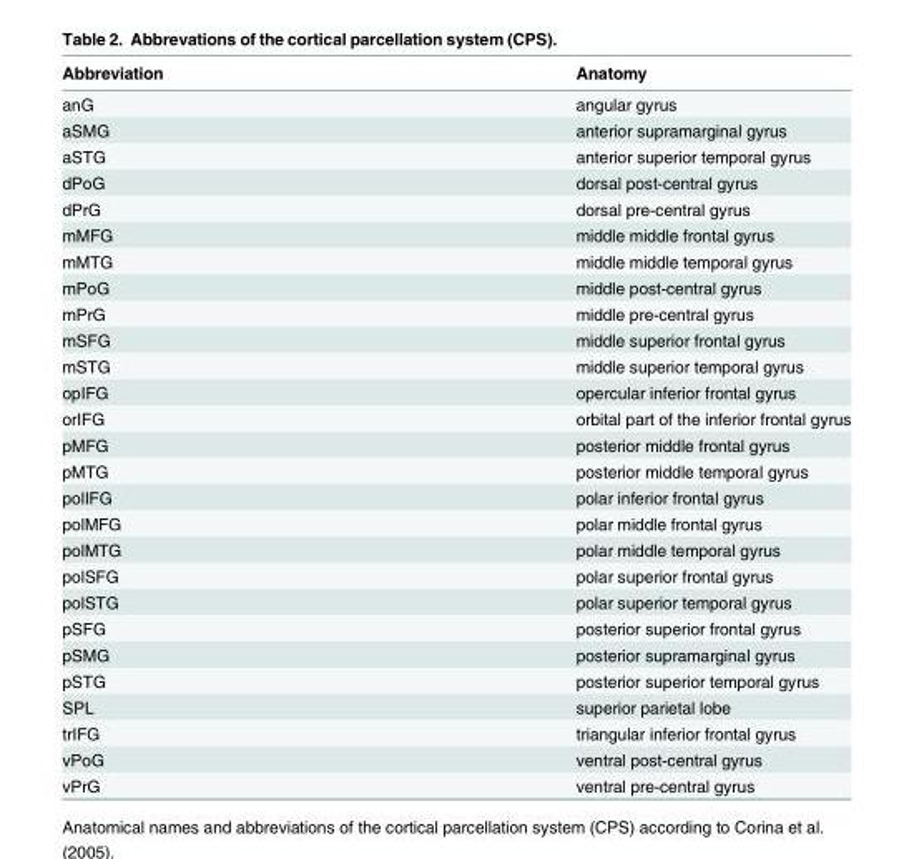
<table><thead><tr><td>Abbreviation</td><td>Anatomy</td></tr></thead><tbody><tr><td>anG</td><td>angular gyrus</td></tr><tr><td>aSMG</td><td>anterior supramarginal gyrus</td></tr><tr><td>aSTG</td><td>anterior superior temporal gyrus</td></tr><tr><td>dPoG</td><td>dorsal post-central gyrus</td></tr><tr><td>dPrG</td><td>dorsal pre-central gyrus</td></tr><tr><td>mMFG</td><td>middle middle frontal gyrus</td></tr><tr><td>mMTG</td><td>middle middle temporal gyrus</td></tr><tr><td>mPoG</td><td>middle post-central gyrus</td></tr><tr><td>mPrG</td><td>middle pre-central gyrus</td></tr><tr><td>mSFG</td><td>middle superior frontal gyrus</td></tr><tr><td>mSTG</td><td>middle superior temporal gyrus</td></tr><tr><td>opIFG</td><td>opercular inferior frontal gyrus</td></tr><tr><td>orIFG</td><td>orbital part of the inferior frontal gyrus</td></tr><tr><td>pMFG</td><td>posterior middle frontal gyrus</td></tr><tr><td>pMTG</td><td>posterior middle temporal gyrus</td></tr><tr><td>polIFG</td><td>polar inferior frontal gyrus</td></tr><tr><td>polMFG</td><td>polar middle frontal gyrus</td></tr><tr><td>polMTG</td><td>polar middle temporal gyrus</td></tr><tr><td>polSFG</td><td>polar superior frontal gyrus</td></tr><tr><td>polSTG</td><td>polar superior temporal gyrus</td></tr><tr><td>pSFG</td><td>posterior superior frontal gyrus</td></tr><tr><td>pSMG</td><td>posterior supramarginal gyrus</td></tr><tr><td>pSTG</td><td>posterior superior temporal gyrus</td></tr><tr><td>SPL</td><td>superior parietal lobe</td></tr><tr><td>trIFG</td><td>triangular inferior frontal gyrus</td></tr><tr><td>vPoG</td><td>ventral post-central gyrus</td></tr><tr><td>vPrG</td><td>ventral pre-central gyrus</td></tr></tbody></table>